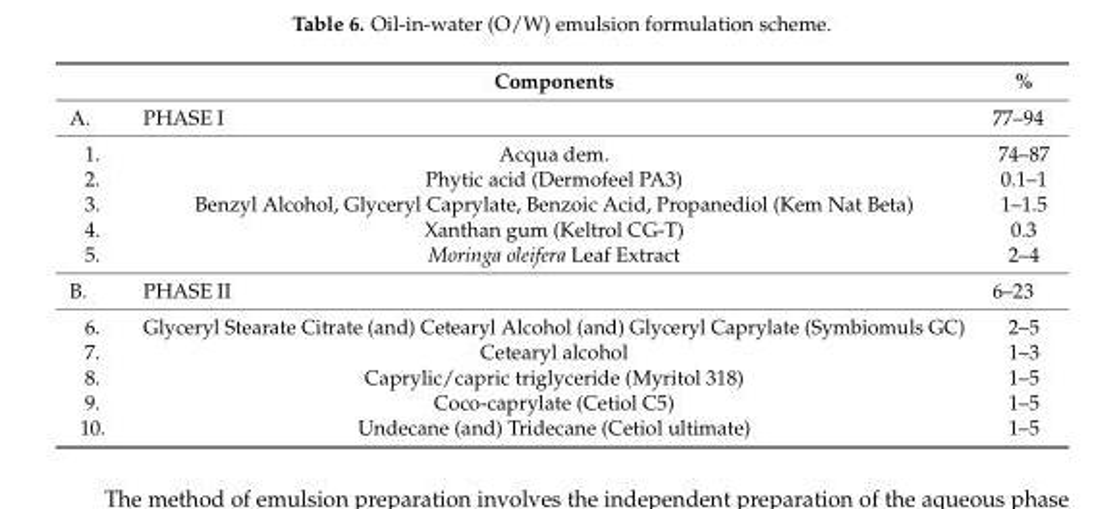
<table><thead><tr><td></td><td>Components</td><td>%</td></tr></thead><tbody><tr><td>A.</td><td>PHASE I</td><td>77–94</td></tr><tr><td>1.</td><td>Acqua dem.</td><td>74–87</td></tr><tr><td>2.</td><td>Phytic acid (Dermofeel PA3)</td><td>0.1–1</td></tr><tr><td>3.</td><td>Benzyl Alcohol, Glyceryl Caprylate, Benzoic Acid, Propanediol (Kem Nat Beta)</td><td>1–1.5</td></tr><tr><td>4.</td><td>Xanthan gum (Keltrol CG-T)</td><td>0.3</td></tr><tr><td>5.</td><td>Moringa oleifera Leaf Extract</td><td>2–4</td></tr><tr><td>B.</td><td>PHASE II</td><td>6–23</td></tr><tr><td>6.</td><td>Glyceryl Stearate Citrate (and) Cetearyl Alcohol (and) Glyceryl Caprylate (Symbiomuls GC)</td><td>2–5</td></tr><tr><td>7.</td><td>Cetearyl alcohol</td><td>1–3</td></tr><tr><td>8.</td><td>Caprylic/capric triglyceride (Myritol 318)</td><td>1–5</td></tr><tr><td>9.</td><td>Coco-caprylate (Cetiol C5)</td><td>1–5</td></tr><tr><td>10.</td><td>Undecane (and) Tridecane (Cetiol ultimate)</td><td>1–5</td></tr></tbody></table>